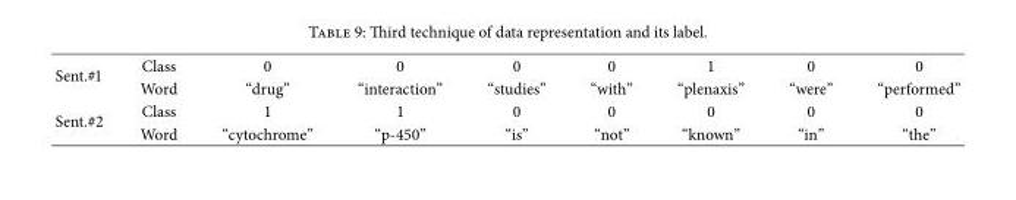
<table><tbody><tr><td rowspan="2">Sent.#1</td><td>Class</td><td>0</td><td>0</td><td>0</td><td>0</td><td>1</td><td>0</td><td>0</td></tr><tr><td>Word</td><td>“drug”</td><td>“interaction”</td><td>“studies”</td><td>“with”</td><td>“plenaxis”</td><td>“were”</td><td>“performed”</td></tr><tr><td rowspan="2">Sent.#2</td><td>Class</td><td>1</td><td>1</td><td>0</td><td>0</td><td>0</td><td>0</td><td>0</td></tr><tr><td>Word</td><td>“cytochrome”</td><td>“p-450”</td><td>“is”</td><td>“not”</td><td>“known”</td><td>“in”</td><td>“the”</td></tr></tbody></table>